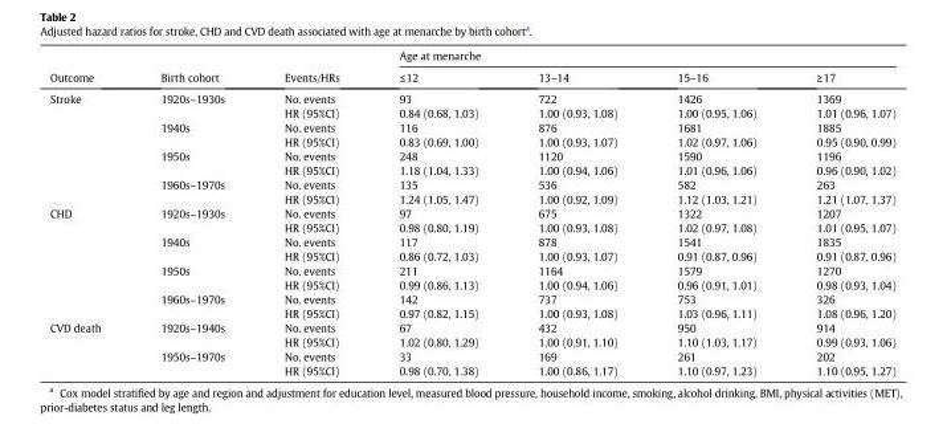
<table><thead><tr><td rowspan="2">Outcome</td><td rowspan="2">Birth cohort</td><td rowspan="2">Events/HRs</td><td colspan="4">Age at menarche</td></tr><tr><td>≤12</td><td>13–14</td><td>15–16</td><td>≥17</td></tr></thead><tbody><tr><td rowspan="8">Stroke</td><td>1920s–1930s</td><td>No. events</td><td>93</td><td>722</td><td>1426</td><td>1369</td></tr><tr><td></td><td>HR (95%CI)</td><td>0.84 (0.68, 1.03)</td><td>1.00 (0.93, 1.08)</td><td>1.00 (0.95, 1.06)</td><td>1.01 (0.96, 1.07)</td></tr><tr><td>1940s</td><td>No. events</td><td>116</td><td>876</td><td>1681</td><td>1885</td></tr><tr><td></td><td>HR (95%CI)</td><td>0.83 (0.69, 1.00)</td><td>1.00 (0.93, 1.07)</td><td>1.02 (0.97, 1.06)</td><td>0.95 (0.90, 0.99)</td></tr><tr><td>1950s</td><td>No. events</td><td>248</td><td>1120</td><td>1590</td><td>1196</td></tr><tr><td></td><td>HR (95%CI)</td><td>1.18 (1.04, 1.33)</td><td>1.00 (0.94, 1.06)</td><td>1.01 (0.96, 1.06)</td><td>0.96 (0.90, 1.02)</td></tr><tr><td>1960s–1970s</td><td>No. events</td><td>135</td><td>536</td><td>582</td><td>263</td></tr><tr><td></td><td>HR (95%CI)</td><td>1.24 (1.05, 1.47)</td><td>1.00 (0.92, 1.09)</td><td>1.12 (1.03, 1.21)</td><td>1.21 (1.07, 1.37)</td></tr><tr><td rowspan="8">CHD</td><td>1920s–1930s</td><td>No. events</td><td>97</td><td>675</td><td>1322</td><td>1207</td></tr><tr><td></td><td>HR (95%CI)</td><td>0.98 (0.80, 1.19)</td><td>1.00 (0.93, 1.08)</td><td>1.02 (0.97, 1.08)</td><td>1.01 (0.95, 1.07)</td></tr><tr><td>1940s</td><td>No. events</td><td>117</td><td>878</td><td>1541</td><td>1835</td></tr><tr><td></td><td>HR (95%CI)</td><td>0.86 (0.72, 1.03)</td><td>1.00 (0.93, 1.07)</td><td>0.91 (0.87, 0.96)</td><td>0.91 (0.87, 0.96)</td></tr><tr><td>1950s</td><td>No. events</td><td>211</td><td>1164</td><td>1579</td><td>1270</td></tr><tr><td></td><td>HR (95%CI)</td><td>0.99 (0.86, 1.13)</td><td>1.00 (0.94, 1.06)</td><td>0.96 (0.91, 1.01)</td><td>0.98 (0.93, 1.04)</td></tr><tr><td>1960s–1970s</td><td>No. events</td><td>142</td><td>737</td><td>753</td><td>326</td></tr><tr><td></td><td>HR (95%CI)</td><td>0.97 (0.82, 1.15)</td><td>1.00 (0.93, 1.08)</td><td>1.03 (0.96, 1.11)</td><td>1.08 (0.96, 1.20)</td></tr><tr><td rowspan="4">CVD death</td><td>1920s–1940s</td><td>No. events</td><td>67</td><td>432</td><td>950</td><td>914</td></tr><tr><td></td><td>HR (95%CI)</td><td>1.02 (0.80, 1.29)</td><td>1.00 (0.91, 1.10)</td><td>1.10 (1.03, 1.17)</td><td>0.99 (0.93, 1.06)</td></tr><tr><td>1950s–1970s</td><td>No. events</td><td>33</td><td>169</td><td>261</td><td>202</td></tr><tr><td></td><td>HR (95%CI)</td><td>0.98 (0.70, 1.38)</td><td>1.00 (0.86, 1.17)</td><td>1.10 (0.97, 1.23)</td><td>1.10 (0.95, 1.27)</td></tr></tbody></table>